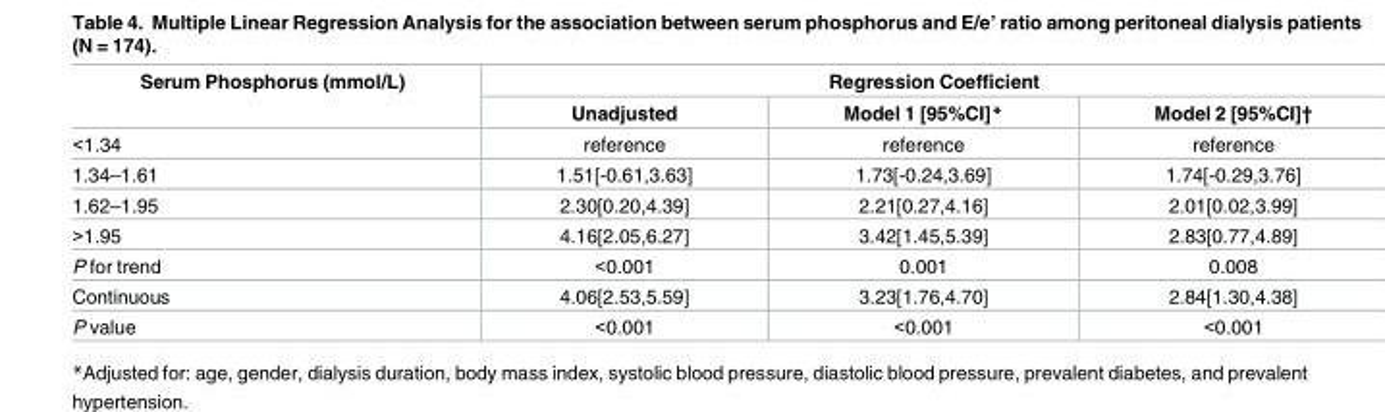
<table><thead><tr><td rowspan="2">Serum Phosphorus (mmol/L)</td><td colspan="3">Regression Coefficient</td></tr><tr><td>Unadjusted</td><td>Model 1 [95%CI]*</td><td>Model 2 [95%CI]†</td></tr></thead><tbody><tr><td>&lt;1.34</td><td>reference</td><td>reference</td><td>reference</td></tr><tr><td>1.34–1.61</td><td>1.51[-0.61,3.63]</td><td>1.73[-0.24,3.69]</td><td>1.74[-0.29,3.76]</td></tr><tr><td>1.62–1.95</td><td>2.30[0.20,4.39]</td><td>2.21[0.27,4.16]</td><td>2.01[0.02,3.99]</td></tr><tr><td>&gt;1.95</td><td>4.16[2.05,6.27]</td><td>3.42[1.45,5.39]</td><td>2.83[0.77,4.89]</td></tr><tr><td>P for trend</td><td>&lt;0.001</td><td>0.001</td><td>0.008</td></tr><tr><td>Continuous</td><td>4.06[2.53,5.59]</td><td>3.23[1.76,4.70]</td><td>2.84[1.30,4.38]</td></tr><tr><td>P value</td><td>&lt;0.001</td><td>&lt;0.001</td><td>&lt;0.001</td></tr></tbody></table>